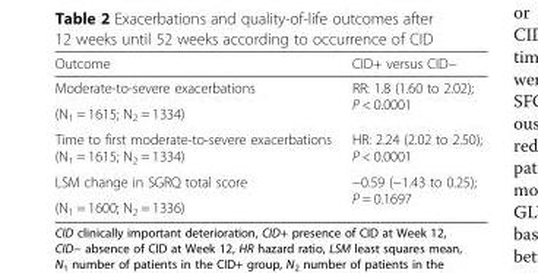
<table><thead><tr><td>Outcome</td><td>CID+ versus CID−</td></tr></thead><tbody><tr><td>Moderate-to-severe exacerbations</td><td rowspan="2">RR: 1.8 (1.60 to 2.02); P &lt; 0.0001</td></tr><tr><td>(N<sub>1</sub> = 1615; N<sub>2</sub> = 1334)</td></tr><tr><td>Time to first moderate-to-severe exacerbations (N<sub>1</sub> = 1615; N<sub>2</sub> = 1334)</td><td>HR: 2.24 (2.02 to 2.50); P &lt; 0.0001</td></tr><tr><td>LSM change in SGRQ total score</td><td rowspan="2">−0.59 (−1.43 to 0.25); P = 0.1697</td></tr><tr><td>(N<sub>1</sub> = 1600; N<sub>2</sub> = 1336)</td></tr></tbody></table>